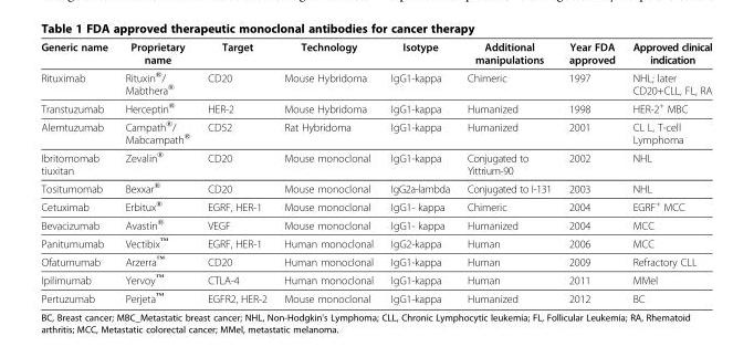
<table><thead><tr><td>Generic name</td><td>Proprietary name</td><td>Target</td><td>Technology</td><td>Isotype</td><td>Additional manipulations</td><td>Year FDA approved</td><td>Approved clinical indication</td></tr></thead><tbody><tr><td>Rituximab</td><td>Rituxin®/ Mabthera®</td><td>CD20</td><td>Mouse Hybridoma</td><td>IgG1-kappa</td><td>Chimeric</td><td>1997</td><td>NHL; later CD20+CLL, FL, RA</td></tr><tr><td>Transtuzumab</td><td>Herceptin®</td><td>HER-2</td><td>Mouse Hybridoma</td><td>IgG1-kappa</td><td>Humanized</td><td>1998</td><td>HER-2<sup>+</sup> MBC</td></tr><tr><td>Alemtuzumab</td><td>Campath®/ Mabcampath®</td><td>CD52</td><td>Rat Hybridoma</td><td>IgG1-kappa</td><td>Humanized</td><td>2001</td><td>CL L, T-cell Lymphoma</td></tr><tr><td>Ibritomomab tiuxitan</td><td>Zevalin®</td><td>CD20</td><td>Mouse monoclonal</td><td>IgG1-kappa</td><td>Conjugated to Yittrium-90</td><td>2002</td><td>NHL</td></tr><tr><td>Tositumomab</td><td>Bexxar®</td><td>CD20</td><td>Mouse monoclonal</td><td>IgG2a-lambda</td><td>Conjugated to I-131</td><td>2003</td><td>NHL</td></tr><tr><td>Cetuximab</td><td>Erbitux®</td><td>EGRF, HER-1</td><td>Mouse monoclonal</td><td>IgG1- kappa</td><td>Chimeric</td><td>2004</td><td>EGRF<sup>+</sup> MCC</td></tr><tr><td>Bevacizumab</td><td>Avastin®</td><td>VEGF</td><td>Mouse monoclonal</td><td>IgG1- kappa</td><td>Humanized</td><td>2004</td><td>MCC</td></tr><tr><td>Panitumumab</td><td>Vectibix™</td><td>EGRF, HER-1</td><td>Human monoclonal</td><td>IgG2-kappa</td><td>Human</td><td>2006</td><td>MCC</td></tr><tr><td>Ofatumumab</td><td>Arzerra™</td><td>CD20</td><td>Human monoclonal</td><td>IgG1-kappa</td><td>Human</td><td>2009</td><td>Refractory CLL</td></tr><tr><td>Ipilimumab</td><td>Yervoy™</td><td>CTLA-4</td><td>Human monoclonal</td><td>IgG1-kappa</td><td>Human</td><td>2011</td><td>MMel</td></tr><tr><td>Pertuzumab</td><td>Perjeta™</td><td>EGFR2, HER-2</td><td>Mouse monoclonal</td><td>IgG1-kappa</td><td>Humanized</td><td>2012</td><td>BC</td></tr></tbody></table>